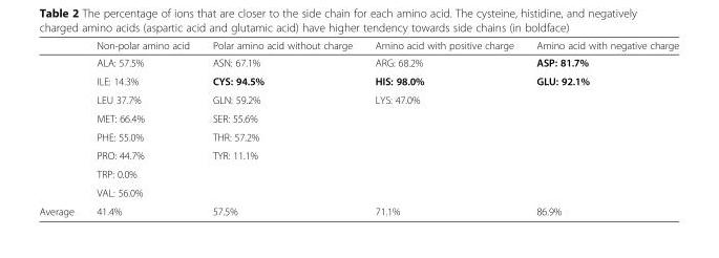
<table><thead><tr><td></td><td>Non-polar amino acid</td><td>Polar amino acid without charge</td><td>Amino acid with positive charge</td><td>Amino acid with negative charge</td></tr></thead><tbody><tr><td rowspan="8"></td><td>ALA: 57.5%</td><td>ASN: 67.1%</td><td>ARG: 68.2%</td><td>ASP: 81.7%</td></tr><tr><td>ILE: 14.3%</td><td>CYS: 94.5%</td><td>HIS: 98.0%</td><td>GLU: 92.1%</td></tr><tr><td>LEU 37.7%</td><td>GLN: 59.2%</td><td>LYS: 47.0%</td><td rowspan="6"></td></tr><tr><td>MET: 66.4%</td><td>SER: 55.6%</td><td rowspan="5"></td></tr><tr><td>PHE: 55.0%</td><td>THR: 57.2%</td></tr><tr><td>PRO: 44.7%</td><td>TYR: 11.1%</td></tr><tr><td>TRP: 0.0%</td><td rowspan="2"></td></tr><tr><td>VAL: 56.0%</td></tr><tr><td>Average</td><td>41.4%</td><td>57.5%</td><td>71.1%</td><td>86.9%</td></tr></tbody></table>